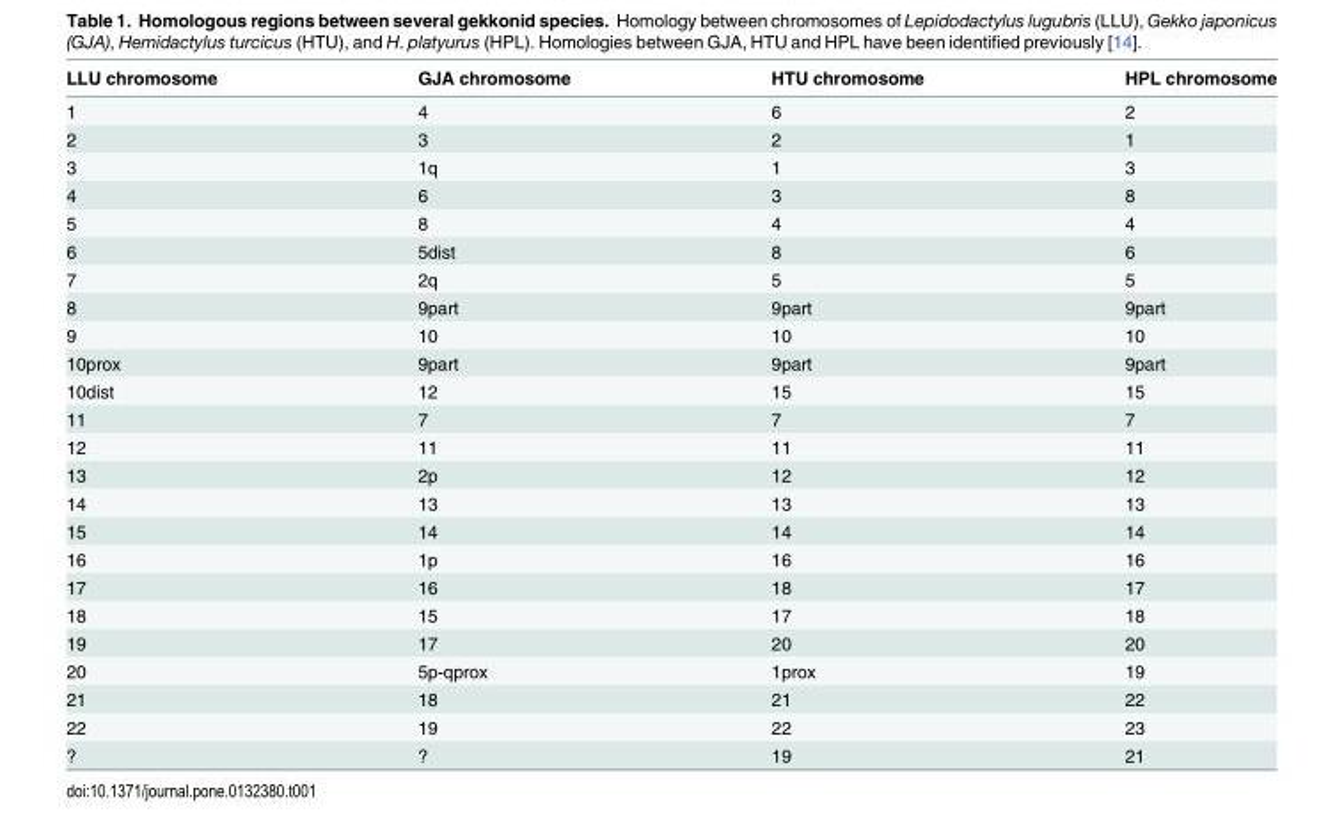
<table><thead><tr><td>LLU chromosome</td><td>GJA chromosome</td><td>HTU chromosome</td><td>HPL chromosome</td></tr></thead><tbody><tr><td>1</td><td>4</td><td>6</td><td>2</td></tr><tr><td>2</td><td>3</td><td>2</td><td>1</td></tr><tr><td>3</td><td>1q</td><td>1</td><td>3</td></tr><tr><td>4</td><td>6</td><td>3</td><td>8</td></tr><tr><td>5</td><td>8</td><td>4</td><td>4</td></tr><tr><td>6</td><td>5dist</td><td>8</td><td>6</td></tr><tr><td>7</td><td>2q</td><td>5</td><td>5</td></tr><tr><td>8</td><td>9part</td><td>9part</td><td>9part</td></tr><tr><td>9</td><td>10</td><td>10</td><td>10</td></tr><tr><td>10prox</td><td>9part</td><td>9part</td><td>9part</td></tr><tr><td>10dist</td><td>12</td><td>15</td><td>15</td></tr><tr><td>11</td><td>7</td><td>7</td><td>7</td></tr><tr><td>12</td><td>11</td><td>11</td><td>11</td></tr><tr><td>13</td><td>2p</td><td>12</td><td>12</td></tr><tr><td>14</td><td>13</td><td>13</td><td>13</td></tr><tr><td>15</td><td>14</td><td>14</td><td>14</td></tr><tr><td>16</td><td>1p</td><td>16</td><td>16</td></tr><tr><td>17</td><td>16</td><td>18</td><td>17</td></tr><tr><td>18</td><td>15</td><td>17</td><td>18</td></tr><tr><td>19</td><td>17</td><td>20</td><td>20</td></tr><tr><td>20</td><td>5p-qprox</td><td>1prox</td><td>19</td></tr><tr><td>21</td><td>18</td><td>21</td><td>22</td></tr><tr><td>22</td><td>19</td><td>22</td><td>23</td></tr><tr><td>?</td><td>?</td><td>19</td><td>21</td></tr></tbody></table>